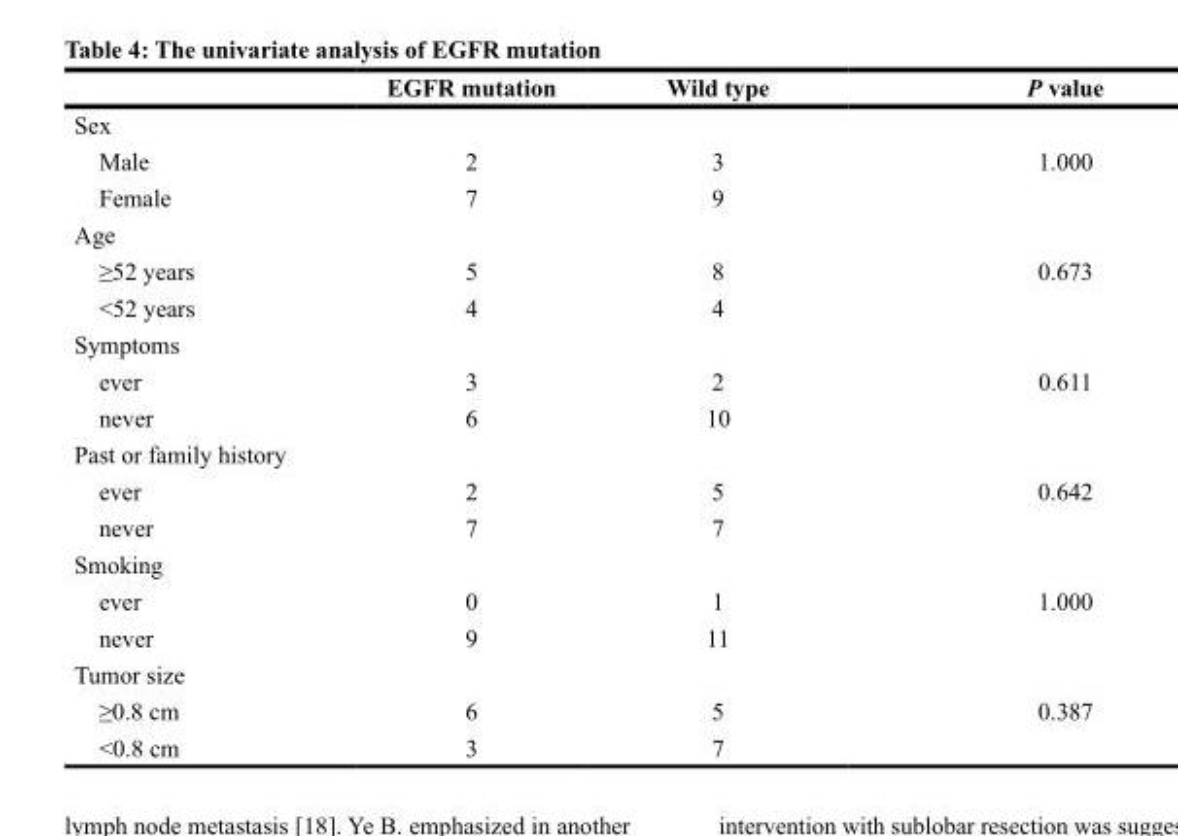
<table><thead><tr><td></td><td>EGFR mutation</td><td>Wild type</td><td>P value</td></tr></thead><tbody><tr><td colspan="4">Sex</td></tr><tr><td>Male</td><td>2</td><td>3</td><td>1.000</td></tr><tr><td>Female</td><td>7</td><td>9</td><td></td></tr><tr><td colspan="4">Age</td></tr><tr><td>≥52 years</td><td>5</td><td>8</td><td>0.673</td></tr><tr><td>&lt;52 years</td><td>4</td><td>4</td><td></td></tr><tr><td colspan="4">Symptoms</td></tr><tr><td>ever</td><td>3</td><td>2</td><td>0.611</td></tr><tr><td>never</td><td>6</td><td>10</td><td></td></tr><tr><td colspan="4">Past or family history</td></tr><tr><td>ever</td><td>2</td><td>5</td><td>0.642</td></tr><tr><td>never</td><td>7</td><td>7</td><td></td></tr><tr><td colspan="4">Smoking</td></tr><tr><td>ever</td><td>0</td><td>1</td><td>1.000</td></tr><tr><td>never</td><td>9</td><td>11</td><td></td></tr><tr><td colspan="4">Tumor size</td></tr><tr><td>≥0.8 cm</td><td>6</td><td>5</td><td>0.387</td></tr><tr><td>&lt;0.8 cm</td><td>3</td><td>7</td><td></td></tr></tbody></table>